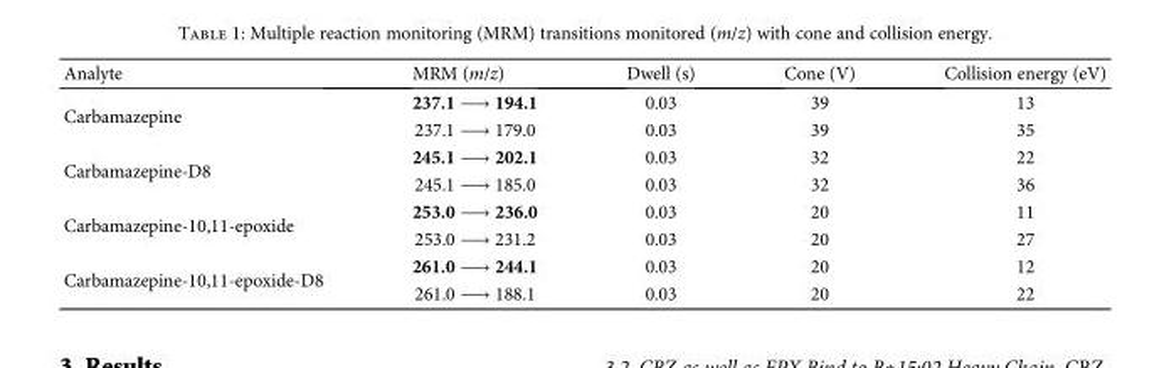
<table><thead><tr><td>Analyte</td><td>MRM (m/z)</td><td>Dwell (s)</td><td>Cone (V)</td><td>Collision energy (eV)</td></tr></thead><tbody><tr><td rowspan="2">Carbamazepine</td><td>237.1 ⟶ 194.1</td><td>0.03</td><td>39</td><td>13</td></tr><tr><td>237.1 ⟶ 179.0</td><td>0.03</td><td>39</td><td>35</td></tr><tr><td rowspan="2">Carbamazepine-D8</td><td>245.1 ⟶ 202.1</td><td>0.03</td><td>32</td><td>22</td></tr><tr><td>245.1 ⟶ 185.0</td><td>0.03</td><td>32</td><td>36</td></tr><tr><td rowspan="2">Carbamazepine-10,11-epoxide</td><td>253.0 ⟶ 236.0</td><td>0.03</td><td>20</td><td>11</td></tr><tr><td>253.0 ⟶ 231.2</td><td>0.03</td><td>20</td><td>27</td></tr><tr><td rowspan="2">Carbamazepine-10,11-epoxide-D8</td><td>261.0 ⟶ 244.1</td><td>0.03</td><td>20</td><td>12</td></tr><tr><td>261.0 ⟶ 188.1</td><td>0.03</td><td>20</td><td>22</td></tr></tbody></table>